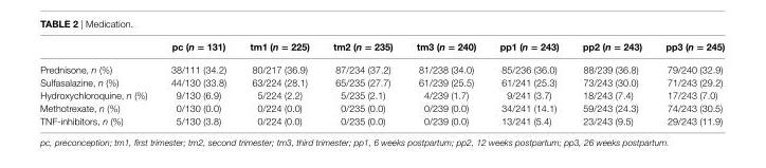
<table><thead><tr><td></td><td>pc (n = 131)</td><td>tm1 (n = 225)</td><td>tm2 (n = 235)</td><td>tm3 (n = 240)</td><td>pp1 (n = 243)</td><td>pp2 (n = 243)</td><td>pp3 (n = 245)</td></tr></thead><tbody><tr><td>Prednisone, n (%)</td><td>38/111 (34.2)</td><td>80/217 (36.9)</td><td>87/234 (37.2)</td><td>81/238 (34.0)</td><td>85/236 (36.0)</td><td>88/239 (36.8)</td><td>79/240 (32.9)</td></tr><tr><td>Sulfasalazine, n (%)</td><td>44/130 (33.8)</td><td>63/224 (28.1)</td><td>65/235 (27.7)</td><td>61/239 (25.5)</td><td>61/241 (25.3)</td><td>73/243 (30.0)</td><td>71/243 (29.2)</td></tr><tr><td>Hydroxychloroquine, n (%)</td><td>9/130 (6.9)</td><td>5/224 (2.2)</td><td>5/235 (2.1)</td><td>4/239 (1.7)</td><td>9/241 (3.7)</td><td>18/243 (7.4)</td><td>17/243 (7.0)</td></tr><tr><td>Methotrexate, n (%)</td><td>0/130 (0.0)</td><td>0/224 (0.0)</td><td>0/235 (0.0)</td><td>0/239 (0.0)</td><td>34/241 (14.1)</td><td>59/243 (24.3)</td><td>74/243 (30.5)</td></tr><tr><td>TNF-inhibitors, n (%)</td><td>5/130 (3.8)</td><td>0/224 (0.0)</td><td>0/235 (0.0)</td><td>0/239 (0.0)</td><td>13/241 (5.4)</td><td>23/243 (9.5)</td><td>29/243 (11.9)</td></tr></tbody></table>